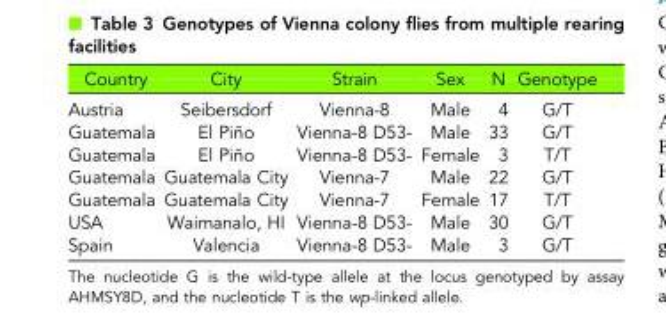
<table><thead><tr><td>Country</td><td>City</td><td>Strain</td><td>Sex</td><td>N</td><td>Genotype</td></tr></thead><tbody><tr><td>Austria</td><td>Seibersdorf</td><td>Vienna-8</td><td>Male</td><td>4</td><td>G/T</td></tr><tr><td>Guatemala</td><td>El Piño</td><td>Vienna-8 D53-</td><td>Male</td><td>33</td><td>G/T</td></tr><tr><td>Guatemala</td><td>El Piño</td><td>Vienna-8 D53-</td><td>Female</td><td>3</td><td>T/T</td></tr><tr><td>Guatemala</td><td>Guatemala City</td><td>Vienna-7</td><td>Male</td><td>22</td><td>G/T</td></tr><tr><td>Guatemala</td><td>Guatemala City</td><td>Vienna-7</td><td>Female</td><td>17</td><td>T/T</td></tr><tr><td>USA</td><td>Waimanalo, HI</td><td>Vienna-8 D53-</td><td>Male</td><td>30</td><td>G/T</td></tr><tr><td>Spain</td><td>Valencia</td><td>Vienna-8 D53-</td><td>Male</td><td>3</td><td>G/T</td></tr></tbody></table>